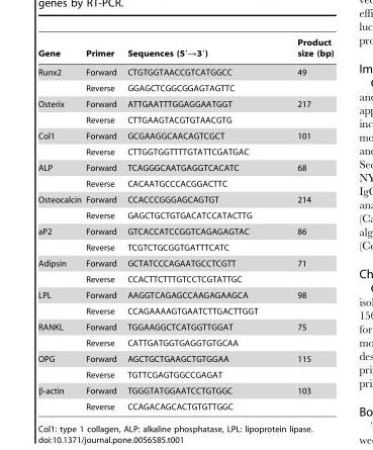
<table><thead><tr><td>Gene</td><td>Primer</td><td>Sequences (5′→3′)</td><td>Product size (bp)</td></tr></thead><tbody><tr><td rowspan="2">Runx2</td><td>Forward</td><td>CTGTGGTAACCGTCATGGCC</td><td>49</td></tr><tr><td>Reverse</td><td>GGAGCTCGGCGGAGTAGTTC</td><td></td></tr><tr><td rowspan="2">Osterix</td><td>Forward</td><td>ATTGAATTTGGAGGAATGGT</td><td>217</td></tr><tr><td>Reverse</td><td>CTTGAAGTACGTGTAACGTG</td><td></td></tr><tr><td rowspan="2">Col1</td><td>Forward</td><td>GCGAAGGCAACAGTCGCT</td><td>101</td></tr><tr><td>Reverse</td><td>CTTGGTGGTTTTGTATTCGATGAC</td><td></td></tr><tr><td rowspan="2">ALP</td><td>Forward</td><td>TCAGGGCAATGAGGTCACATC</td><td>68</td></tr><tr><td>Reverse</td><td>CACAATGCCCACGGACTTC</td><td></td></tr><tr><td rowspan="2">Osteocalcin</td><td>Forward</td><td>CCACCCGGGAGCAGTGT</td><td>214</td></tr><tr><td>Reverse</td><td>GAGCTGCTGTGACATCCATACTTG</td><td></td></tr><tr><td rowspan="2">aP2</td><td>Forward</td><td>GTCACCATCCGGTCAGAGAGTAC</td><td>86</td></tr><tr><td>Reverse</td><td>TCGTCTGCGGTGATTTCATC</td><td></td></tr><tr><td rowspan="2">Adipsin</td><td>Forward</td><td>GCTATCCCAGAATGCCTCGTT</td><td>71</td></tr><tr><td>Reverse</td><td>CCACTTCTTTGTCCTCGTATTGC</td><td></td></tr><tr><td rowspan="2">LPL</td><td>Forward</td><td>AAGGTCAGAGCCAAGAGAAGCA</td><td>98</td></tr><tr><td>Reverse</td><td>CCAGAAAAGTGAATCTTGACTTGGT</td><td></td></tr><tr><td rowspan="2">RANKL</td><td>Forward</td><td>TGGAAGGCTCATGGTTGGAT</td><td>75</td></tr><tr><td>Reverse</td><td>CATTGATGGTGAGGTGTGCAA</td><td></td></tr><tr><td rowspan="2">OPG</td><td>Forward</td><td>AGCTGCTGAAGCTGTGGAA</td><td>115</td></tr><tr><td>Reverse</td><td>TGTTCGAGTGGCCGAGAT</td><td></td></tr><tr><td rowspan="2">β-actin</td><td>Forward</td><td>TGGGTATGGAATCCTGTGGC</td><td>103</td></tr><tr><td>Reverse</td><td>CCAGACAGCACTGTGTTGGC</td><td></td></tr></tbody></table>